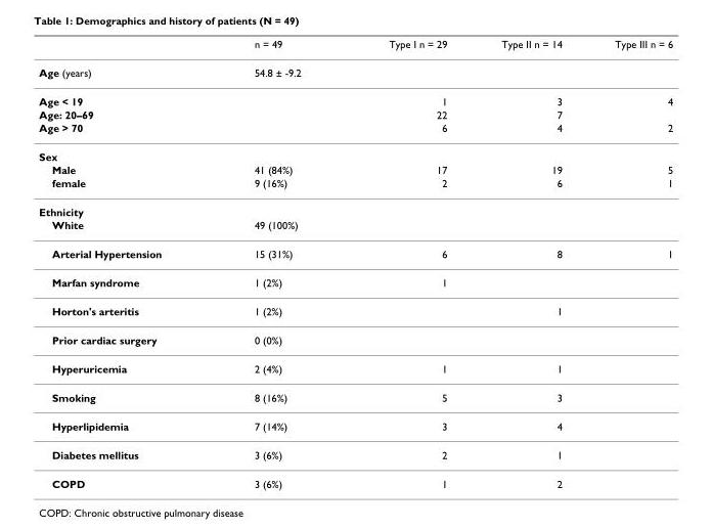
<table><thead><tr><td></td><td>n = 49</td><td>Type I n = 29</td><td>Type II n = 14</td><td>Type III n = 6</td></tr></thead><tbody><tr><td>Age (years)</td><td>54.8 ± -9.2</td><td></td><td></td><td></td></tr><tr><td>Age &lt; 19</td><td></td><td>1</td><td>3</td><td>4</td></tr><tr><td>Age: 20–69</td><td></td><td>22</td><td>7</td><td></td></tr><tr><td>Age &gt; 70</td><td></td><td>6</td><td>4</td><td>2</td></tr><tr><td colspan="5">Sex</td></tr><tr><td>Male</td><td>41 (84%)</td><td>17</td><td>19</td><td>5</td></tr><tr><td>female</td><td>9 (16%)</td><td>2</td><td>6</td><td>1</td></tr><tr><td colspan="5">Ethnicity</td></tr><tr><td>White</td><td>49 (100%)</td><td></td><td></td><td></td></tr><tr><td>Arterial Hypertension</td><td>15 (31%)</td><td>6</td><td>8</td><td>1</td></tr><tr><td>Marfan syndrome</td><td>1 (2%)</td><td>1</td><td></td><td></td></tr><tr><td>Horton&#x27;s arteritis</td><td>1 (2%)</td><td></td><td>1</td><td></td></tr><tr><td>Prior cardiac surgery</td><td>0 (0%)</td><td></td><td></td><td></td></tr><tr><td>Hyperuricemia</td><td>2 (4%)</td><td>1</td><td>1</td><td></td></tr><tr><td>Smoking</td><td>8 (16%)</td><td>5</td><td>3</td><td></td></tr><tr><td>Hyperlipidemia</td><td>7 (14%)</td><td>3</td><td>4</td><td></td></tr><tr><td>Diabetes mellitus</td><td>3 (6%)</td><td>2</td><td>1</td><td></td></tr><tr><td>COPD</td><td>3 (6%)</td><td>1</td><td>2</td><td></td></tr></tbody></table>